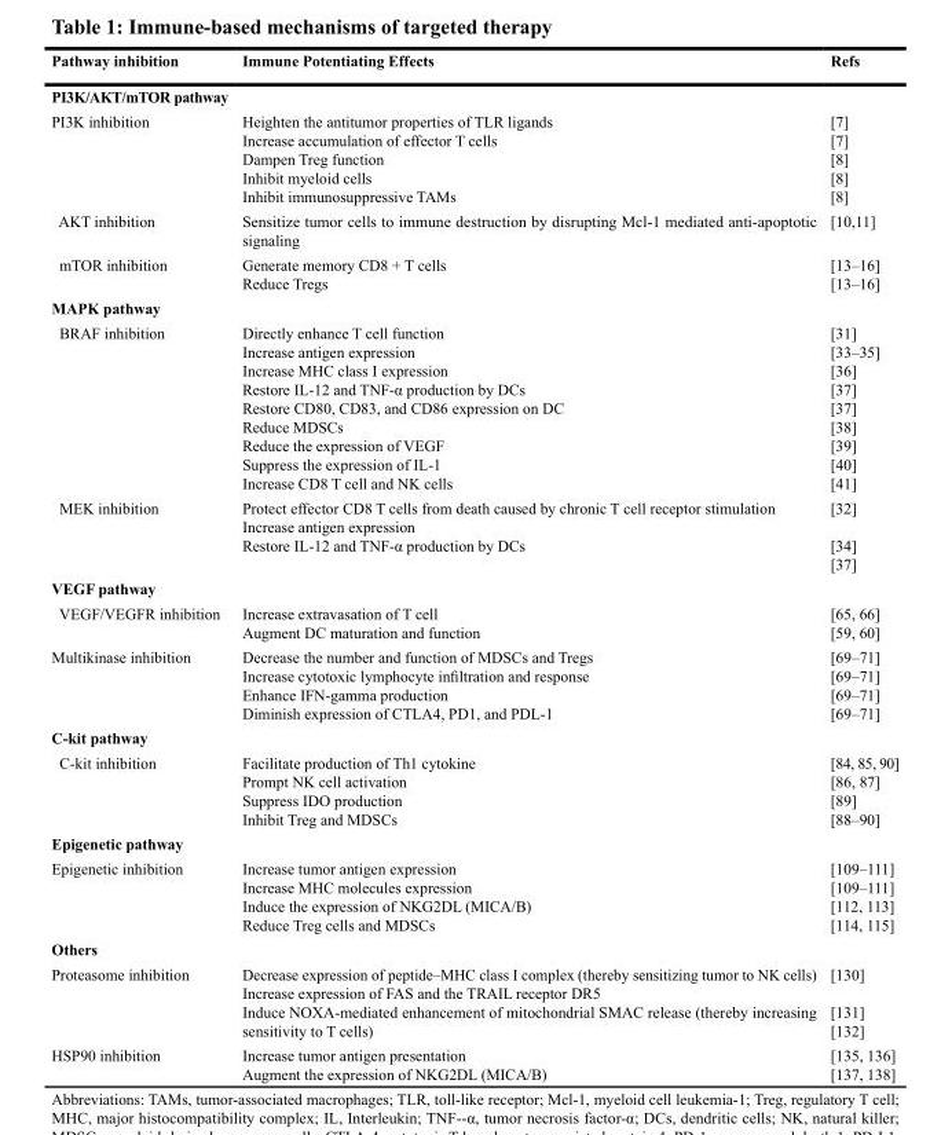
<table><thead><tr><td>Pathway inhibition</td><td>Immune Potentiating Effects</td><td>Refs</td></tr></thead><tbody><tr><td colspan="3">PI3K/AKT/mTOR pathway</td></tr><tr><td>PI3K inhibition</td><td>Heighten the antitumor properties of TLR ligands Increase accumulation of effector T cells Dampen Treg function Inhibit myeloid cells Inhibit immunosuppressive TAMs</td><td>[7] [7] [8] [8] [8]</td></tr><tr><td>AKT inhibition</td><td>Sensitize tumor cells to immune destruction by disrupting Mcl-1 mediated anti-apoptotic signaling</td><td>[10,11]</td></tr><tr><td>mTOR inhibition</td><td>Generate memory CD8 + T cells Reduce Tregs</td><td>[13–16] [13–16]</td></tr><tr><td colspan="3">MAPK pathway</td></tr><tr><td>BRAF inhibition</td><td>Directly enhance T cell function Increase antigen expression Increase MHC class I expression Restore IL-12 and TNF-α production by DCs Restore CD80, CD83, and CD86 expression on DC Reduce MDSCs Reduce the expression of VEGF Suppress the expression of IL-1 Increase CD8 T cell and NK cells</td><td>[31] [33–35] [36] [37] [37] [38] [39] [40] [41]</td></tr><tr><td>MEK inhibition</td><td>Protect effector CD8 T cells from death caused by chronic T cell receptor stimulation Increase antigen expression Restore IL-12 and TNF-α production by DCs</td><td>[32] [34] [37]</td></tr><tr><td colspan="3">VEGF pathway</td></tr><tr><td>VEGF/VEGFR inhibition</td><td>Increase extravasation of T cell Augment DC maturation and function</td><td>[65, 66] [59, 60]</td></tr><tr><td>Multikinase inhibition</td><td>Decrease the number and function of MDSCs and Tregs Increase cytotoxic lymphocyte infiltration and response Enhance IFN-gamma production Diminish expression of CTLA4, PD1, and PDL-1</td><td>[69–71] [69–71] [69–71] [69–71]</td></tr><tr><td colspan="3">C-kit pathway</td></tr><tr><td>C-kit inhibition</td><td>Facilitate production of Th1 cytokine Prompt NK cell activation Suppress IDO production Inhibit Treg and MDSCs</td><td>[84, 85, 90] [86, 87] [89] [88–90]</td></tr><tr><td colspan="3">Epigenetic pathway</td></tr><tr><td>Epigenetic inhibition</td><td>Increase tumor antigen expression Increase MHC molecules expression Induce the expression of NKG2DL (MICA/B) Reduce Treg cells and MDSCs</td><td>[109–111] [109–111] [112, 113] [114, 115]</td></tr><tr><td colspan="3">Others</td></tr><tr><td>Proteasome inhibition</td><td>Decrease expression of peptide–MHC class I complex (thereby sensitizing tumor to NK cells) Increase expression of FAS and the TRAIL receptor DR5 Induce NOXA-mediated enhancement of mitochondrial SMAC release (thereby increasing sensitivity to T cells)</td><td>[130] [131] [132]</td></tr><tr><td>HSP90 inhibition</td><td>Increase tumor antigen presentation Augment the expression of NKG2DL (MICA/B)</td><td>[135, 136] [137, 138]</td></tr></tbody></table>